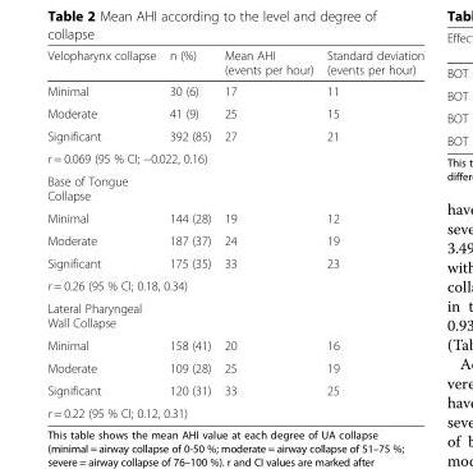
<table><thead><tr><td>Velopharynx collapse</td><td>n (%)</td><td>Mean AHI (events per hour)</td><td>Standard deviation (events per hour)</td></tr></thead><tbody><tr><td>Minimal</td><td>30 (6)</td><td>17</td><td>11</td></tr><tr><td>Moderate</td><td>41 (9)</td><td>25</td><td>15</td></tr><tr><td>Significant</td><td>392 (85)</td><td>27</td><td>21</td></tr><tr><td colspan="4">r = 0.069 (95 % CI; −0.022, 0.16)</td></tr><tr><td colspan="4">Base of Tongue Collapse</td></tr><tr><td>Minimal</td><td>144 (28)</td><td>19</td><td>12</td></tr><tr><td>Moderate</td><td>187 (37)</td><td>24</td><td>19</td></tr><tr><td>Significant</td><td>175 (35)</td><td>33</td><td>23</td></tr><tr><td colspan="4">r = 0.26 (95 % CI; 0.18, 0.34)</td></tr><tr><td colspan="4">Lateral Pharyngeal Wall Collapse</td></tr><tr><td>Minimal</td><td>158 (41)</td><td>20</td><td>16</td></tr><tr><td>Moderate</td><td>109 (28)</td><td>25</td><td>19</td></tr><tr><td>Significant</td><td>120 (31)</td><td>33</td><td>25</td></tr><tr><td colspan="4">r = 0.22 (95 % CI; 0.12, 0.31)</td></tr></tbody></table>